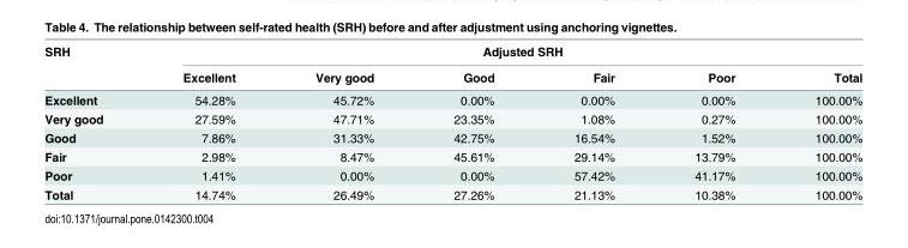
<table><thead><tr><td rowspan="2">SRH</td><td colspan="6">Adjusted SRH</td></tr><tr><td>Excellent</td><td>Very good</td><td>Good</td><td>Fair</td><td>Poor</td><td>Total</td></tr></thead><tbody><tr><td>Excellent</td><td>54.28%</td><td>45.72%</td><td>0.00%</td><td>0.00%</td><td>0.00%</td><td>100.00%</td></tr><tr><td>Very good</td><td>27.59%</td><td>47.71%</td><td>23.35%</td><td>1.08%</td><td>0.27%</td><td>100.00%</td></tr><tr><td>Good</td><td>7.86%</td><td>31.33%</td><td>42.75%</td><td>16.54%</td><td>1.52%</td><td>100.00%</td></tr><tr><td>Fair</td><td>2.98%</td><td>8.47%</td><td>45.61%</td><td>29.14%</td><td>13.79%</td><td>100.00%</td></tr><tr><td>Poor</td><td>1.41%</td><td>0.00%</td><td>0.00%</td><td>57.42%</td><td>41.17%</td><td>100.00%</td></tr><tr><td>Total</td><td>14.74%</td><td>26.49%</td><td>27.26%</td><td>21.13%</td><td>10.38%</td><td>100.00%</td></tr></tbody></table>